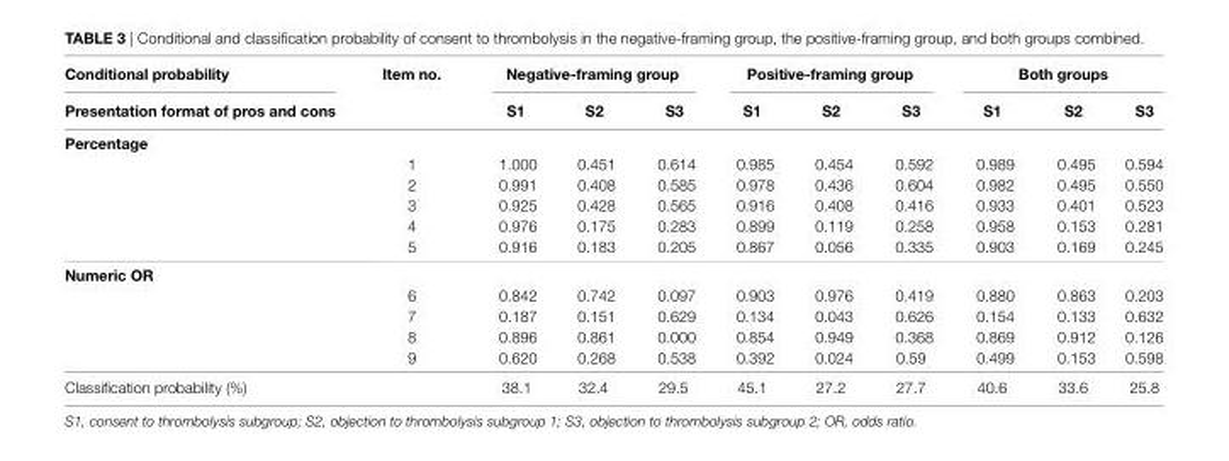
<table><thead><tr><td rowspan="2">conditional probability Presentation format of pros and cons</td><td rowspan="2">item no.</td><td colspan="3">negative-framing group</td><td colspan="3">Positive-framing group</td><td colspan="3">both groups</td></tr><tr><td>s1</td><td>s2</td><td>s3</td><td>s1</td><td>s2</td><td>s3</td><td>s1</td><td>s2</td><td>s3</td></tr></thead><tbody><tr><td colspan="11">Percentage</td></tr><tr><td></td><td>1</td><td>1.000</td><td>0.451</td><td>0.614</td><td>0.985</td><td>0.454</td><td>0.592</td><td>0.989</td><td>0.495</td><td>0.594</td></tr><tr><td></td><td>2</td><td>0.991</td><td>0.408</td><td>0.585</td><td>0.978</td><td>0.436</td><td>0.604</td><td>0.982</td><td>0.495</td><td>0.550</td></tr><tr><td></td><td>3</td><td>0.925</td><td>0.428</td><td>0.565</td><td>0.916</td><td>0.408</td><td>0.416</td><td>0.933</td><td>0.401</td><td>0.523</td></tr><tr><td></td><td>4</td><td>0.976</td><td>0.175</td><td>0.283</td><td>0.899</td><td>0.119</td><td>0.258</td><td>0.958</td><td>0.153</td><td>0.281</td></tr><tr><td></td><td>5</td><td>0.916</td><td>0.183</td><td>0.205</td><td>0.867</td><td>0.056</td><td>0.335</td><td>0.903</td><td>0.169</td><td>0.245</td></tr><tr><td colspan="11">numeric Or</td></tr><tr><td></td><td>6</td><td>0.842</td><td>0.742</td><td>0.097</td><td>0.903</td><td>0.976</td><td>0.419</td><td>0.880</td><td>0.863</td><td>0.203</td></tr><tr><td></td><td>7</td><td>0.187</td><td>0.151</td><td>0.629</td><td>0.134</td><td>0.043</td><td>0.626</td><td>0.154</td><td>0.133</td><td>0.632</td></tr><tr><td></td><td>8</td><td>0.896</td><td>0.861</td><td>0.000</td><td>0.854</td><td>0.949</td><td>0.368</td><td>0.869</td><td>0.912</td><td>0.126</td></tr><tr><td></td><td>9</td><td>0.620</td><td>0.268</td><td>0.538</td><td>0.392</td><td>0.024</td><td>0.59</td><td>0.499</td><td>0.153</td><td>0.598</td></tr><tr><td>Classification probability (%)</td><td></td><td>38.1</td><td>32.4</td><td>29.5</td><td>45.1</td><td>27.2</td><td>27.7</td><td>40.6</td><td>33.6</td><td>25.8</td></tr></tbody></table>